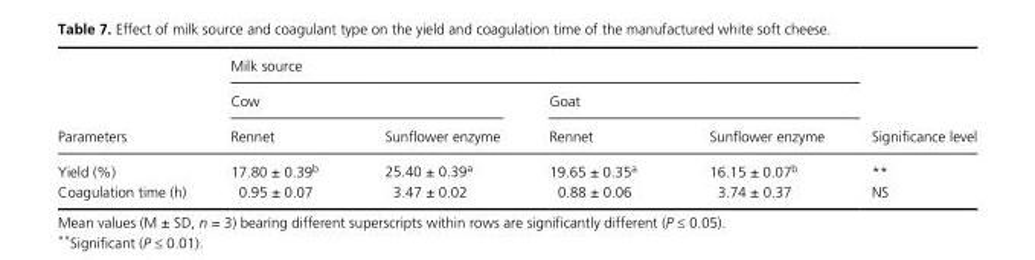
<table><thead><tr><td rowspan="3">Parameters</td><td colspan="4">Milk source</td><td rowspan="3">Significance level</td></tr><tr><td colspan="2">Cow</td><td colspan="2">Goat</td></tr><tr><td>Rennet</td><td>Sunflower enzyme</td><td>Rennet</td><td>Sunflower enzyme</td></tr></thead><tbody><tr><td>Yield (%)</td><td>17.80 ± 0.39<sup>b</sup></td><td>25.40 ± 0.39<sup>a</sup></td><td>19.65 ± 0.35<sup>a</sup></td><td>16.15 ± 0.07<sup>b</sup></td><td>**</td></tr><tr><td>Coagulation time (h)</td><td>0.95 ± 0.07</td><td>3.47 ± 0.02</td><td>0.88 ± 0.06</td><td>3.74 ± 0.37</td><td>NS</td></tr></tbody></table>